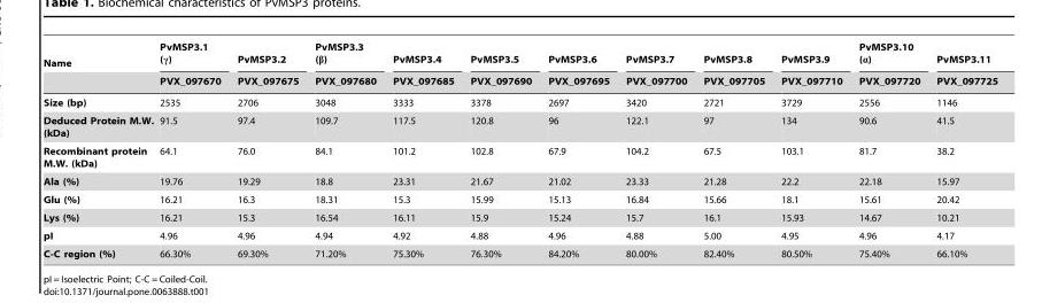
<table><thead><tr><td rowspan="2">Name</td><td rowspan="2">PvMSP3.1 (γ) PVX_097670</td><td rowspan="2">PvMSP3.2 PVX_097675</td><td rowspan="2">PvMSP3.3 (β) PVX_097680</td><td rowspan="2">PvMSP3.4 PVX_097685</td><td rowspan="2">PvMSP3.5 PVX_097690</td><td rowspan="2">PvMSP3.6 PVX_097695</td><td rowspan="2">PvMSP3.7 PVX_097700</td><td rowspan="2">PvMSP3.8 PVX_097705</td><td rowspan="2">PvMSP3.9 PVX_097710</td><td rowspan="2">PvMSP3.10 (α) PVX_097720</td><td rowspan="2">PvMSP3.11 PVX_097725</td></tr><tr></tr></thead><tbody><tr><td>Size (bp)</td><td>2535</td><td>2706</td><td>3048</td><td>3333</td><td>3378</td><td>2697</td><td>3420</td><td>2721</td><td>3729</td><td>2556</td><td>1146</td></tr><tr><td>Deduced Protein M.W. (kDa)</td><td>91.5</td><td>97.4</td><td>109.7</td><td>117.5</td><td>120.8</td><td>96</td><td>122.1</td><td>97</td><td>134</td><td>90.6</td><td>41.5</td></tr><tr><td>Recombinant protein M.W. (kDa)</td><td>64.1</td><td>76.0</td><td>84.1</td><td>101.2</td><td>102.8</td><td>67.9</td><td>104.2</td><td>67.5</td><td>103.1</td><td>81.7</td><td>38.2</td></tr><tr><td>Ala (%)</td><td>19.76</td><td>19.29</td><td>18.8</td><td>23.31</td><td>21.67</td><td>21.02</td><td>23.33</td><td>21.28</td><td>22.2</td><td>22.18</td><td>15.97</td></tr><tr><td>Glu (%)</td><td>16.21</td><td>16.3</td><td>18.31</td><td>15.3</td><td>15.99</td><td>15.13</td><td>16.84</td><td>15.66</td><td>18.1</td><td>15.61</td><td>20.42</td></tr><tr><td>Lys (%)</td><td>16.21</td><td>15.3</td><td>16.54</td><td>16.11</td><td>15.9</td><td>15.24</td><td>15.7</td><td>16.1</td><td>15.93</td><td>14.67</td><td>10.21</td></tr><tr><td>pI</td><td>4.96</td><td>4.96</td><td>4.94</td><td>4.92</td><td>4.88</td><td>4.96</td><td>4.88</td><td>5.00</td><td>4.95</td><td>4.96</td><td>4.17</td></tr><tr><td>C-C region (%)</td><td>66.30%</td><td>69.30%</td><td>71.20%</td><td>75.30%</td><td>76.30%</td><td>84.20%</td><td>80.00%</td><td>82.40%</td><td>80.50%</td><td>75.40%</td><td>66.10%</td></tr></tbody></table>